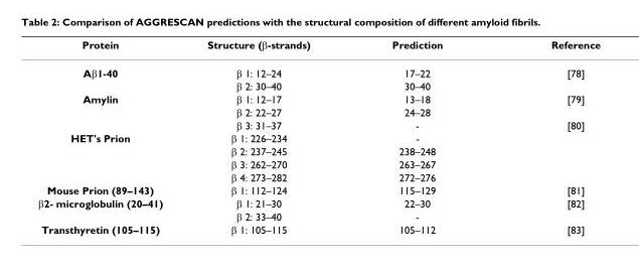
<table><thead><tr><td>Protein</td><td>Structure (β-strands)</td><td>Prediction</td><td>Reference</td></tr></thead><tbody><tr><td rowspan="2">Aβ1-40</td><td>β 1: 12–24</td><td>17–22</td><td>[78]</td></tr><tr><td>β 2: 30–40</td><td>30–40</td><td></td></tr><tr><td rowspan="3">Amylin</td><td>β 1: 12–17</td><td>13–18</td><td>[79]</td></tr><tr><td>β 2: 22–27</td><td>24–28</td><td></td></tr><tr><td>β 3: 31–37</td><td>-</td><td>[80]</td></tr><tr><td rowspan="4">HET&#x27;s Prion</td><td>β 1: 226–234</td><td>-</td><td></td></tr><tr><td>β 2: 237–245</td><td>238–248</td><td></td></tr><tr><td>β 3: 262–270</td><td>263–267</td><td></td></tr><tr><td>β 4: 273–282</td><td>272–276</td><td></td></tr><tr><td>Mouse Prion (89–143)</td><td>β 1: 112–124</td><td>115–129</td><td>[81]</td></tr><tr><td rowspan="2">β2- microglobulin (20–41)</td><td>β 1: 21–30</td><td>22–30</td><td>[82]</td></tr><tr><td>β 2: 33–40</td><td>-</td><td></td></tr><tr><td>Transthyretin (105–115)</td><td>β 1: 105–115</td><td>105–112</td><td>[83]</td></tr></tbody></table>